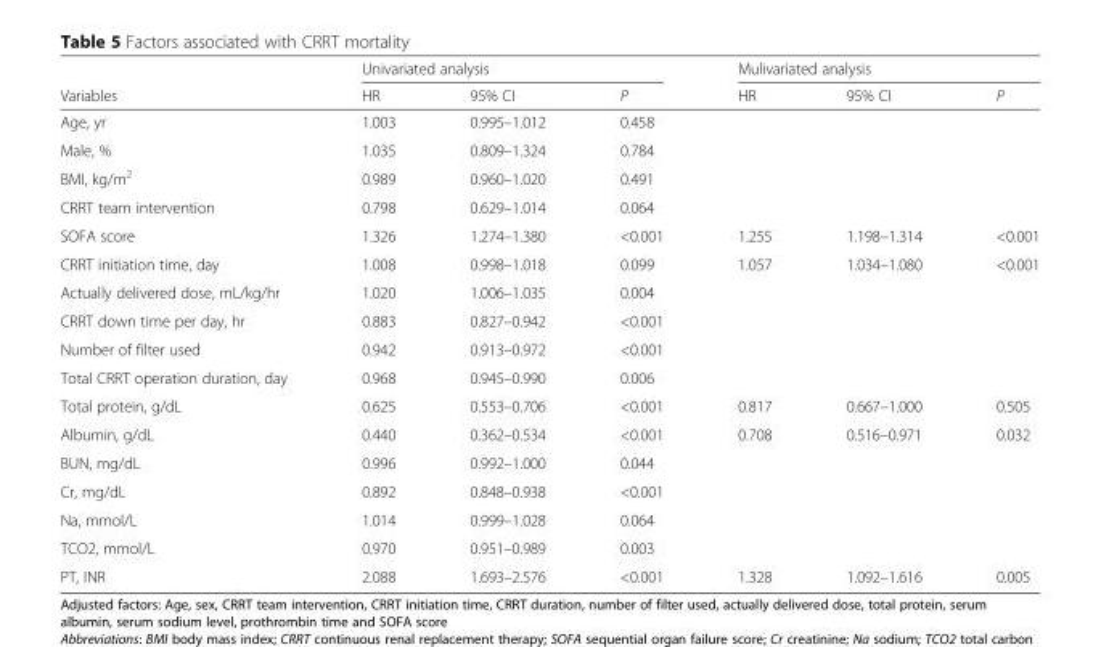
<table><thead><tr><td rowspan="2">Variables</td><td colspan="3">Univariated analysis</td><td colspan="3">Mulivariated analysis</td></tr><tr><td>HR</td><td>95% CI</td><td>P</td><td>HR</td><td>95% CI</td><td>P</td></tr></thead><tbody><tr><td>Age, yr</td><td>1.003</td><td>0.995–1.012</td><td>0.458</td><td></td><td></td><td></td></tr><tr><td>Male, %</td><td>1.035</td><td>0.809–1.324</td><td>0.784</td><td></td><td></td><td></td></tr><tr><td>BMI, kg/m<sup>2</sup></td><td>0.989</td><td>0.960–1.020</td><td>0.491</td><td></td><td></td><td></td></tr><tr><td>CRRT team intervention</td><td>0.798</td><td>0.629–1.014</td><td>0.064</td><td></td><td></td><td></td></tr><tr><td>SOFA score</td><td>1.326</td><td>1.274–1.380</td><td>&lt;0.001</td><td>1.255</td><td>1.198–1.314</td><td>&lt;0.001</td></tr><tr><td>CRRT initiation time, day</td><td>1.008</td><td>0.998–1.018</td><td>0.099</td><td>1.057</td><td>1.034–1.080</td><td>&lt;0.001</td></tr><tr><td>Actually delivered dose, mL/kg/hr</td><td>1.020</td><td>1.006–1.035</td><td>0.004</td><td></td><td></td><td></td></tr><tr><td>CRRT down time per day, hr</td><td>0.883</td><td>0.827–0.942</td><td>&lt;0.001</td><td></td><td></td><td></td></tr><tr><td>Number of filter used</td><td>0.942</td><td>0.913–0.972</td><td>&lt;0.001</td><td></td><td></td><td></td></tr><tr><td>Total CRRT operation duration, day</td><td>0.968</td><td>0.945–0.990</td><td>0.006</td><td></td><td></td><td></td></tr><tr><td>Total protein, g/dL</td><td>0.625</td><td>0.553–0.706</td><td>&lt;0.001</td><td>0.817</td><td>0.667–1.000</td><td>0.505</td></tr><tr><td>Albumin, g/dL</td><td>0.440</td><td>0.362–0.534</td><td>&lt;0.001</td><td>0.708</td><td>0.516–0.971</td><td>0.032</td></tr><tr><td>BUN, mg/dL</td><td>0.996</td><td>0.992–1.000</td><td>0.044</td><td></td><td></td><td></td></tr><tr><td>Cr, mg/dL</td><td>0.892</td><td>0.848–0.938</td><td>&lt;0.001</td><td></td><td></td><td></td></tr><tr><td>Na, mmol/L</td><td>1.014</td><td>0.999–1.028</td><td>0.064</td><td></td><td></td><td></td></tr><tr><td>TCO2, mmol/L</td><td>0.970</td><td>0.951–0.989</td><td>0.003</td><td></td><td></td><td></td></tr><tr><td>PT, INR</td><td>2.088</td><td>1.693–2.576</td><td>&lt;0.001</td><td>1.328</td><td>1.092–1.616</td><td>0.005</td></tr></tbody></table>